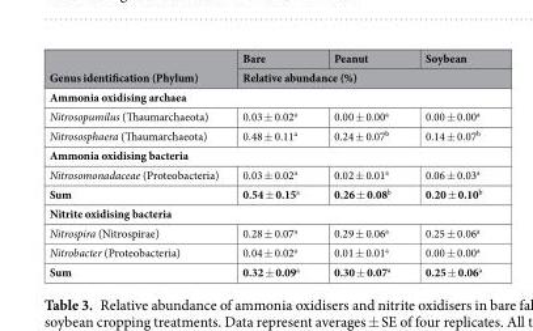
<table><thead><tr><td rowspan="2">Genus identification (Phylum)</td><td>Bare</td><td>Peanut</td><td>Soybean</td></tr><tr><td colspan="3">Relative abundance (%)</td></tr></thead><tbody><tr><td colspan="4">Ammonia oxidising archaea</td></tr><tr><td>Nitrosopumilus (Thaumarchaeota)</td><td>0.03 ± 0.02<sup>a</sup></td><td>0.00 ± 0.00<sup>a</sup></td><td>0.00 ± 0.00<sup>a</sup></td></tr><tr><td>Nitrososphaera (Thaumarchaeota)</td><td>0.48 ± 0.11<sup>a</sup></td><td>0.24 ± 0.07<sup>b</sup></td><td>0.14 ± 0.07<sup>b</sup></td></tr><tr><td colspan="4">Ammonia oxidising bacteria</td></tr><tr><td>Nitrosomonadaceae (Proteobacteria)</td><td>0.03 ± 0.02<sup>a</sup></td><td>0.02 ± 0.01<sup>a</sup></td><td>0.06 ± 0.03<sup>a</sup></td></tr><tr><td>Sum</td><td>0.54 ± 0.15<sup>a</sup></td><td>0.26 ± 0.08<sup>b</sup></td><td>0.20 ± 0.10<sup>b</sup></td></tr><tr><td colspan="4">Nitrite oxidising bacteria</td></tr><tr><td>Nitrospira (Nitrospirae)</td><td>0.28 ± 0.07<sup>a</sup></td><td>0.29 ± 0.06<sup>a</sup></td><td>0.25 ± 0.06<sup>a</sup></td></tr><tr><td>Nitrobacter (Proteobacteria)</td><td>0.04 ± 0.02<sup>a</sup></td><td>0.01 ± 0.01<sup>a</sup></td><td>0.00 ± 0.00<sup>a</sup></td></tr><tr><td>Sum</td><td>0.32 ± 0.09<sup>a</sup></td><td>0.30 ± 0.07<sup>a</sup></td><td>0.25 ± 0.06<sup>a</sup></td></tr></tbody></table>